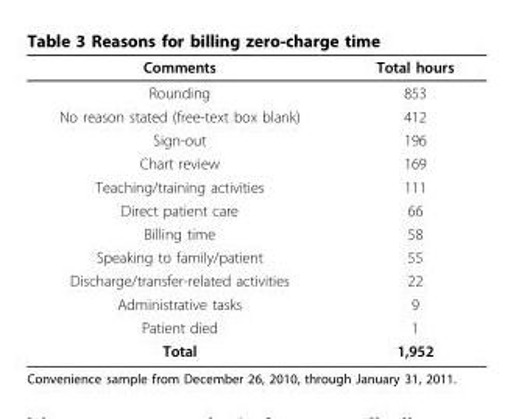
<table><thead><tr><td>Comments</td><td>Total hours</td></tr></thead><tbody><tr><td>Rounding</td><td>853</td></tr><tr><td>No reason stated (free-text box blank)</td><td>412</td></tr><tr><td>Sign-out</td><td>196</td></tr><tr><td>Chart review</td><td>169</td></tr><tr><td>Teaching/training activities</td><td>111</td></tr><tr><td>Direct patient care</td><td>66</td></tr><tr><td>Billing time</td><td>58</td></tr><tr><td>Speaking to family/patient</td><td>55</td></tr><tr><td>Discharge/transfer-related activities</td><td>22</td></tr><tr><td>Administrative tasks</td><td>9</td></tr><tr><td>Patient died</td><td>1</td></tr><tr><td>Total</td><td>1,952</td></tr></tbody></table>